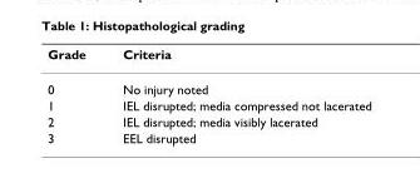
<table><thead><tr><td>Grade</td><td>Criteria</td></tr></thead><tbody><tr><td>0</td><td>No injury noted</td></tr><tr><td>1</td><td>IEL disrupted; media compressed not lacerated</td></tr><tr><td>2</td><td>IEL disrupted; media visibly lacerated</td></tr><tr><td>3</td><td>EEL disrupted</td></tr></tbody></table>